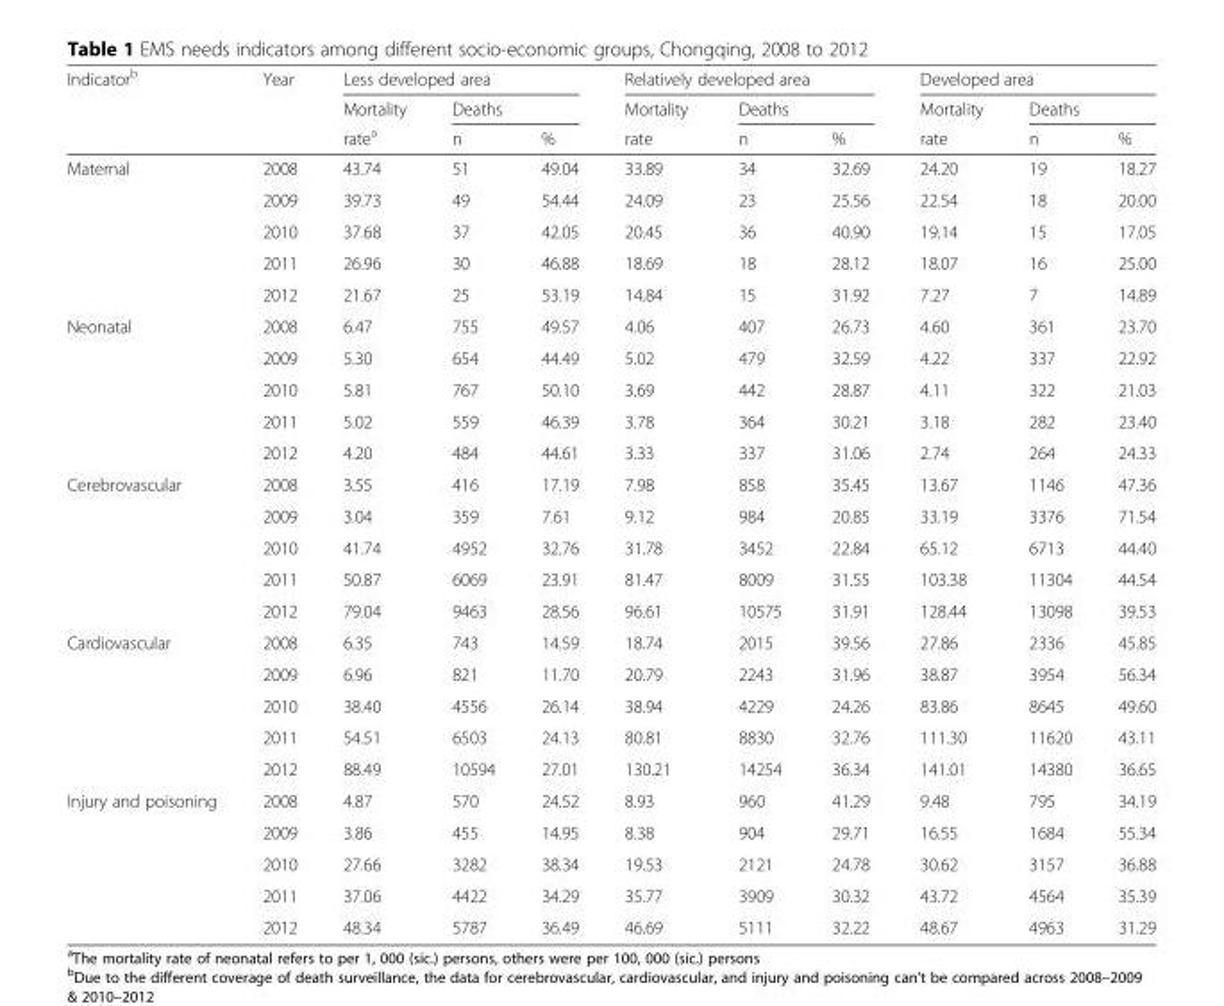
<table><thead><tr><td rowspan="3">Indicator<sup>b</sup></td><td rowspan="3">Year</td><td colspan="3">Less developed area</td><td colspan="3">Relatively developed area</td><td colspan="3">Developed area</td></tr><tr><td rowspan="2">Mortality rate<sup>a</sup></td><td colspan="2">Deaths</td><td rowspan="2">Mortality rate</td><td colspan="2">Deaths</td><td rowspan="2">Mortality rate</td><td colspan="2">Deaths</td></tr><tr><td>n</td><td>%</td><td>n</td><td>%</td><td>n</td><td>%</td></tr></thead><tbody><tr><td rowspan="5">Maternal</td><td>2008</td><td>43.74</td><td>51</td><td>49.04</td><td>33.89</td><td>34</td><td>32.69</td><td>24.20</td><td>19</td><td>18.27</td></tr><tr><td>2009</td><td>39.73</td><td>49</td><td>54.44</td><td>24.09</td><td>23</td><td>25.56</td><td>22.54</td><td>18</td><td>20.00</td></tr><tr><td>2010</td><td>37.68</td><td>37</td><td>42.05</td><td>20.45</td><td>36</td><td>40.90</td><td>19.14</td><td>15</td><td>17.05</td></tr><tr><td>2011</td><td>26.96</td><td>30</td><td>46.88</td><td>18.69</td><td>18</td><td>28.12</td><td>18.07</td><td>16</td><td>25.00</td></tr><tr><td>2012</td><td>21.67</td><td>25</td><td>53.19</td><td>14.84</td><td>15</td><td>31.92</td><td>7.27</td><td>7</td><td>14.89</td></tr><tr><td rowspan="5">Neonatal</td><td>2008</td><td>6.47</td><td>755</td><td>49.57</td><td>4.06</td><td>407</td><td>26.73</td><td>4.60</td><td>361</td><td>23.70</td></tr><tr><td>2009</td><td>5.30</td><td>654</td><td>44.49</td><td>5.02</td><td>479</td><td>32.59</td><td>4.22</td><td>337</td><td>22.92</td></tr><tr><td>2010</td><td>5.81</td><td>767</td><td>50.10</td><td>3.69</td><td>442</td><td>28.87</td><td>4.11</td><td>322</td><td>21.03</td></tr><tr><td>2011</td><td>5.02</td><td>559</td><td>46.39</td><td>3.78</td><td>364</td><td>30.21</td><td>3.18</td><td>282</td><td>23.40</td></tr><tr><td>2012</td><td>4.20</td><td>484</td><td>44.61</td><td>3.33</td><td>337</td><td>31.06</td><td>2.74</td><td>264</td><td>24.33</td></tr><tr><td rowspan="5">Cerebrovascular</td><td>2008</td><td>3.55</td><td>416</td><td>17.19</td><td>7.98</td><td>858</td><td>35.45</td><td>13.67</td><td>1146</td><td>47.36</td></tr><tr><td>2009</td><td>3.04</td><td>359</td><td>7.61</td><td>9.12</td><td>984</td><td>20.85</td><td>33.19</td><td>3376</td><td>71.54</td></tr><tr><td>2010</td><td>41.74</td><td>4952</td><td>32.76</td><td>31.78</td><td>3452</td><td>22.84</td><td>65.12</td><td>6713</td><td>44.40</td></tr><tr><td>2011</td><td>50.87</td><td>6069</td><td>23.91</td><td>81.47</td><td>8009</td><td>31.55</td><td>103.38</td><td>11304</td><td>44.54</td></tr><tr><td>2012</td><td>79.04</td><td>9463</td><td>28.56</td><td>96.61</td><td>10575</td><td>31.91</td><td>128.44</td><td>13098</td><td>39.53</td></tr><tr><td rowspan="5">Cardiovascular</td><td>2008</td><td>6.35</td><td>743</td><td>14.59</td><td>18.74</td><td>2015</td><td>39.56</td><td>27.86</td><td>2336</td><td>45.85</td></tr><tr><td>2009</td><td>6.96</td><td>821</td><td>11.70</td><td>20.79</td><td>2243</td><td>31.96</td><td>38.87</td><td>3954</td><td>56.34</td></tr><tr><td>2010</td><td>38.40</td><td>4556</td><td>26.14</td><td>38.94</td><td>4229</td><td>24.26</td><td>83.86</td><td>8645</td><td>49.60</td></tr><tr><td>2011</td><td>54.51</td><td>6503</td><td>24.13</td><td>80.81</td><td>8830</td><td>32.76</td><td>111.30</td><td>11620</td><td>43.11</td></tr><tr><td>2012</td><td>88.49</td><td>10594</td><td>27.01</td><td>130.21</td><td>14254</td><td>36.34</td><td>141.01</td><td>14380</td><td>36.65</td></tr><tr><td rowspan="5">Injury and poisoning</td><td>2008</td><td>4.87</td><td>570</td><td>24.52</td><td>8.93</td><td>960</td><td>41.29</td><td>9.48</td><td>795</td><td>34.19</td></tr><tr><td>2009</td><td>3.86</td><td>455</td><td>14.95</td><td>8.38</td><td>904</td><td>29.71</td><td>16.55</td><td>1684</td><td>55.34</td></tr><tr><td>2010</td><td>27.66</td><td>3282</td><td>38.34</td><td>19.53</td><td>2121</td><td>24.78</td><td>30.62</td><td>3157</td><td>36.88</td></tr><tr><td>2011</td><td>37.06</td><td>4422</td><td>34.29</td><td>35.77</td><td>3909</td><td>30.32</td><td>43.72</td><td>4564</td><td>35.39</td></tr><tr><td>2012</td><td>48.34</td><td>5787</td><td>36.49</td><td>46.69</td><td>5111</td><td>32.22</td><td>48.67</td><td>4963</td><td>31.29</td></tr></tbody></table>